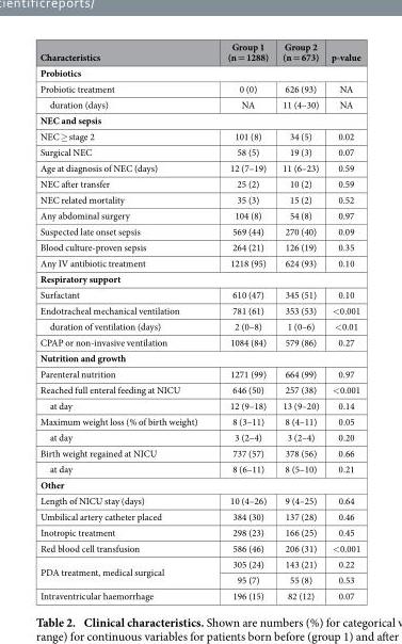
<table><thead><tr><td>Characteristics</td><td>Group 1 (n = 1288)</td><td>Group 2 (n = 673)</td><td>p-value</td></tr></thead><tbody><tr><td colspan="4">Probiotics</td></tr><tr><td>Probiotic treatment</td><td>0 (0)</td><td>626 (93)</td><td>NA</td></tr><tr><td>duration (days)</td><td>NA</td><td>11 (4–30)</td><td>NA</td></tr><tr><td colspan="4">NEC and sepsis</td></tr><tr><td>NEC ≥ stage 2</td><td>101 (8)</td><td>34 (5)</td><td>0.02</td></tr><tr><td>Surgical NEC</td><td>58 (5)</td><td>19 (3)</td><td>0.07</td></tr><tr><td>Age at diagnosis of NEC (days)</td><td>12 (7–19)</td><td>11 (6–23)</td><td>0.59</td></tr><tr><td>NEC after transfer</td><td>25 (2)</td><td>10 (2)</td><td>0.59</td></tr><tr><td>NEC related mortality</td><td>35 (3)</td><td>15 (2)</td><td>0.52</td></tr><tr><td>Any abdominal surgery</td><td>104 (8)</td><td>54 (8)</td><td>0.97</td></tr><tr><td>Suspected late onset sepsis</td><td>569 (44)</td><td>270 (40)</td><td>0.09</td></tr><tr><td>Blood culture-proven sepsis</td><td>264 (21)</td><td>126 (19)</td><td>0.35</td></tr><tr><td>Any IV antibiotic treatment</td><td>1218 (95)</td><td>624 (93)</td><td>0.10</td></tr><tr><td colspan="4">Respiratory support</td></tr><tr><td>Surfactant</td><td>610 (47)</td><td>345 (51)</td><td>0.10</td></tr><tr><td>Endotracheal mechanical ventilation</td><td>781 (61)</td><td>353 (53)</td><td>&lt; 0.001</td></tr><tr><td>duration of ventilation (days)</td><td>2 (0–8)</td><td>1 (0–6)</td><td>&lt; 0.01</td></tr><tr><td>CPAP or non-invasive ventilation</td><td>1084 (84)</td><td>579 (86)</td><td>0.27</td></tr><tr><td colspan="4">Nutrition and growth</td></tr><tr><td>Parenteral nutrition</td><td>1271 (99)</td><td>664 (99)</td><td>0.97</td></tr><tr><td>Reached full enteral feeding at NICU</td><td>646 (50)</td><td>257 (38)</td><td>&lt; 0.001</td></tr><tr><td>at day</td><td>12 (9–18)</td><td>13 (9–20)</td><td>0.14</td></tr><tr><td>Maximum weight loss (% of birth weight)</td><td>8 (3–11)</td><td>8 (4–11)</td><td>0.05</td></tr><tr><td>at day</td><td>3 (2–4)</td><td>3 (2–4)</td><td>0.20</td></tr><tr><td>Birth weight regained at NICU</td><td>737 (57)</td><td>378 (56)</td><td>0.66</td></tr><tr><td>at day</td><td>8 (6–11)</td><td>8 (5–10)</td><td>0.21</td></tr><tr><td colspan="4">Other</td></tr><tr><td>Length of NICU stay (days)</td><td>10 (4–26)</td><td>9 (4–25)</td><td>0.64</td></tr><tr><td>Umbilical artery catheter placed</td><td>384 (30)</td><td>137 (28)</td><td>0.46</td></tr><tr><td>Inotropic treatment</td><td>298 (23)</td><td>166 (25)</td><td>0.45</td></tr><tr><td>Red blood cell transfusion</td><td>586 (46)</td><td>206 (31)</td><td>&lt; 0.001</td></tr><tr><td rowspan="2">PDA treatment, medical surgical</td><td>305 (24)</td><td>143 (21)</td><td>0.22</td></tr><tr><td>95 (7)</td><td>55 (8)</td><td>0.53</td></tr><tr><td>Intraventricular haemorrhage</td><td>196 (15)</td><td>82 (12)</td><td>0.07</td></tr></tbody></table>